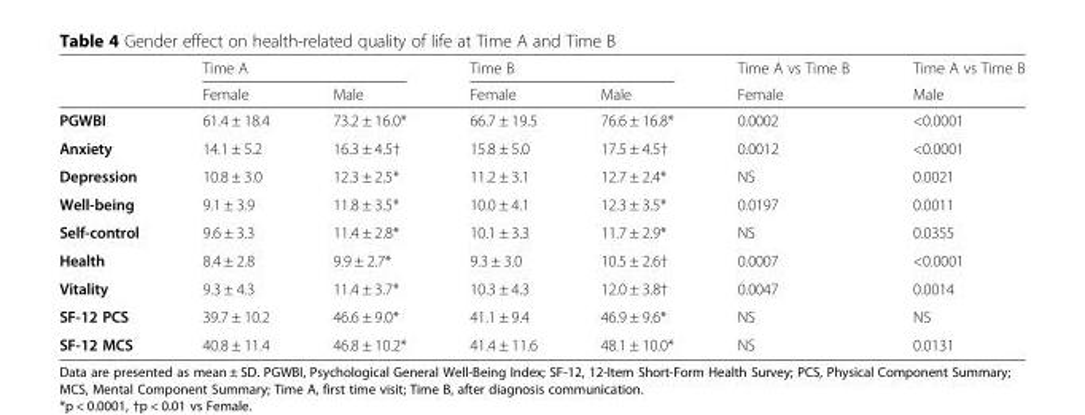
<table><thead><tr><td rowspan="2"></td><td colspan="2">Time A</td><td colspan="2">Time B</td><td rowspan="2">Time A vs Time B Female</td><td rowspan="2">Time A vs Time B Male</td></tr><tr><td>Female</td><td>Male</td><td>Female</td><td>Male</td></tr></thead><tbody><tr><td>PGWBI</td><td>61.4 ± 18.4</td><td>73.2 ± 16.0*</td><td>66.7 ± 19.5</td><td>76.6 ± 16.8*</td><td>0.0002</td><td>&lt;0.0001</td></tr><tr><td>Anxiety</td><td>14.1 ± 5.2</td><td>16.3 ± 4.5†</td><td>15.8 ± 5.0</td><td>17.5 ± 4.5†</td><td>0.0012</td><td>&lt;0.0001</td></tr><tr><td>Depression</td><td>10.8 ± 3.0</td><td>12.3 ± 2.5*</td><td>11.2 ± 3.1</td><td>12.7 ± 2.4*</td><td>NS</td><td>0.0021</td></tr><tr><td>Well-being</td><td>9.1 ± 3.9</td><td>11.8 ± 3.5*</td><td>10.0 ± 4.1</td><td>12.3 ± 3.5*</td><td>0.0197</td><td>0.0011</td></tr><tr><td>Self-control</td><td>9.6 ± 3.3</td><td>11.4 ± 2.8*</td><td>10.1 ± 3.3</td><td>11.7 ± 2.9*</td><td>NS</td><td>0.0355</td></tr><tr><td>Health</td><td>8.4 ± 2.8</td><td>9.9 ± 2.7*</td><td>9.3 ± 3.0</td><td>10.5 ± 2.6†</td><td>0.0007</td><td>&lt;0.0001</td></tr><tr><td>Vitality</td><td>9.3 ± 4.3</td><td>11.4 ± 3.7*</td><td>10.3 ± 4.3</td><td>12.0 ± 3.8†</td><td>0.0047</td><td>0.0014</td></tr><tr><td>SF-12 PCS</td><td>39.7 ± 10.2</td><td>46.6 ± 9.0*</td><td>41.1 ± 9.4</td><td>46.9 ± 9.6*</td><td>NS</td><td>NS</td></tr><tr><td>SF-12 MCS</td><td>40.8 ± 11.4</td><td>46.8 ± 10.2*</td><td>41.4 ± 11.6</td><td>48.1 ± 10.0*</td><td>NS</td><td>0.0131</td></tr></tbody></table>